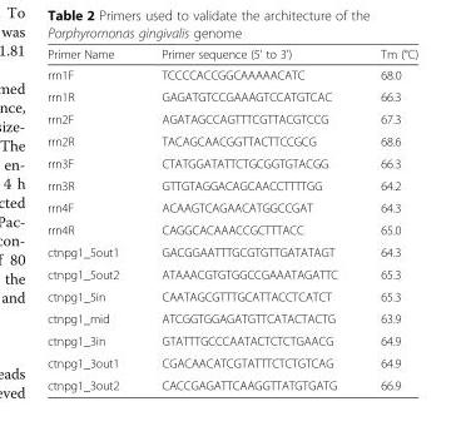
<table><thead><tr><td>Primer Name</td><td>Primer sequence (5&#x27; to 3&#x27;)</td><td>Tm (°C)</td></tr></thead><tbody><tr><td>rrn1F</td><td>TCCCCACCGGCAAAAACATC</td><td>68.0</td></tr><tr><td>rrn1R</td><td>GAGATGTCCGAAAGTCCATGTCAC</td><td>66.3</td></tr><tr><td>rrn2F</td><td>AGATAGCCAGTTTCGTTACGTCCG</td><td>67.3</td></tr><tr><td>rrn2R</td><td>TACAGCAACGGTTACTTCCGCG</td><td>68.6</td></tr><tr><td>rrn3F</td><td>CTATGGATATTCTGCGGTGTACGG</td><td>66.3</td></tr><tr><td>rrn3R</td><td>GTTGTAGGACAGCAACCTTTTGG</td><td>64.2</td></tr><tr><td>rrn4F</td><td>ACAAGTCAGAACATGGCCGAT</td><td>64.3</td></tr><tr><td>rrn4R</td><td>CAGGCACAAACCGCTTTACC</td><td>65.0</td></tr><tr><td>ctnpg1_5out1</td><td>GACGGAATTTGCGTGTTGATATAGT</td><td>64.3</td></tr><tr><td>ctnpg1_5out2</td><td>ATAAACGTGTGGCCGAAATAGATTC</td><td>65.3</td></tr><tr><td>ctnpg1_5in</td><td>CAATAGCGTTTGCATTACCTCATCT</td><td>65.3</td></tr><tr><td>ctnpg1_mid</td><td>ATCGGTGGAGATGTTCATACTACTG</td><td>63.9</td></tr><tr><td>ctnpg1_3in</td><td>GTATTTGCCCAATACTCTCTGAACG</td><td>64.9</td></tr><tr><td>ctnpg1_3out1</td><td>CGACAACATCGTATTTCTCTGTCAG</td><td>64.9</td></tr><tr><td>ctnpg1_3out2</td><td>CACCGAGATTCAAGGTTATGTGATG</td><td>66.9</td></tr></tbody></table>